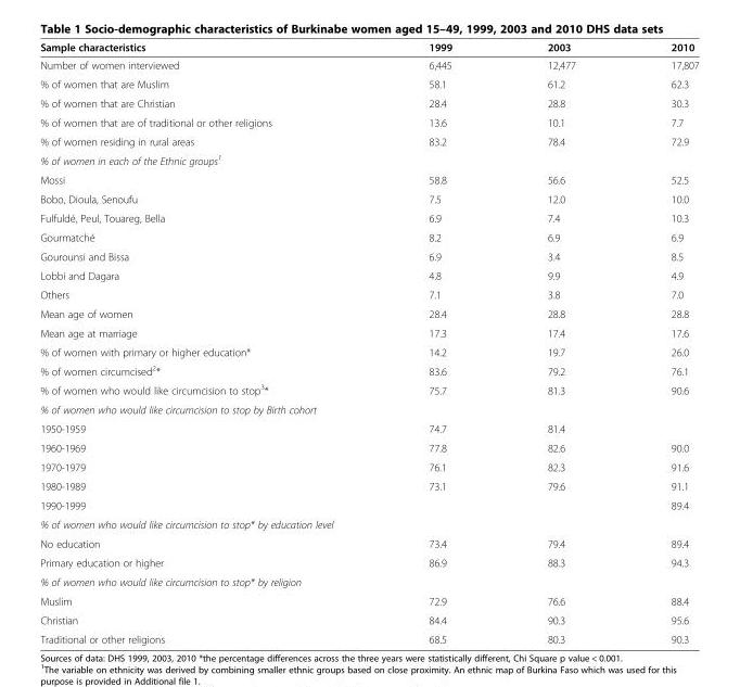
<table><thead><tr><td>Sample characteristics</td><td>1999</td><td>2003</td><td>2010</td></tr></thead><tbody><tr><td>Number of women interviewed</td><td>6,445</td><td>12,477</td><td>17,807</td></tr><tr><td>% of women that are Muslim</td><td>58.1</td><td>61.2</td><td>62.3</td></tr><tr><td>% of women that are Christian</td><td>28.4</td><td>28.8</td><td>30.3</td></tr><tr><td>% of women that are of traditional or other religions</td><td>13.6</td><td>10.1</td><td>7.7</td></tr><tr><td>% of women residing in rural areas</td><td>83.2</td><td>78.4</td><td>72.9</td></tr><tr><td colspan="4">% of women in each of the Ethnic groups<sup>1</sup></td></tr><tr><td>Mossi</td><td>58.8</td><td>56.6</td><td>52.5</td></tr><tr><td>Bobo, Dioula, Senoufu</td><td>7.5</td><td>12.0</td><td>10.0</td></tr><tr><td>Fulfuldé, Peul, Touareg, Bella</td><td>6.9</td><td>7.4</td><td>10.3</td></tr><tr><td>Gourmatché</td><td>8.2</td><td>6.9</td><td>6.9</td></tr><tr><td>Gourounsi and Bissa</td><td>6.9</td><td>3.4</td><td>8.5</td></tr><tr><td>Lobbi and Dagara</td><td>4.8</td><td>9.9</td><td>4.9</td></tr><tr><td>Others</td><td>7.1</td><td>3.8</td><td>7.0</td></tr><tr><td>Mean age of women</td><td>28.4</td><td>28.8</td><td>28.8</td></tr><tr><td>Mean age at marriage</td><td>17.3</td><td>17.4</td><td>17.6</td></tr><tr><td>% of women with primary or higher education*</td><td>14.2</td><td>19.7</td><td>26.0</td></tr><tr><td>% of women circumcised<sup>2</sup>*</td><td>83.6</td><td>79.2</td><td>76.1</td></tr><tr><td>% of women who would like circumcision to stop<sup>3</sup>*</td><td>75.7</td><td>81.3</td><td>90.6</td></tr><tr><td colspan="4">% of women who would like circumcision to stop by Birth cohort</td></tr><tr><td>1950-1959</td><td>74.7</td><td>81.4</td><td></td></tr><tr><td>1960-1969</td><td>77.8</td><td>82.6</td><td>90.0</td></tr><tr><td>1970-1979</td><td>76.1</td><td>82.3</td><td>91.6</td></tr><tr><td>1980-1989</td><td>73.1</td><td>79.6</td><td>91.1</td></tr><tr><td>1990-1999</td><td></td><td></td><td>89.4</td></tr><tr><td colspan="4">% of women who would like circumcision to stop* by education level</td></tr><tr><td>No education</td><td>73.4</td><td>79.4</td><td>89.4</td></tr><tr><td>Primary education or higher</td><td>86.9</td><td>88.3</td><td>94.3</td></tr><tr><td colspan="4">% of women who would like circumcision to stop* by religion</td></tr><tr><td>Muslim</td><td>72.9</td><td>76.6</td><td>88.4</td></tr><tr><td>Christian</td><td>84.4</td><td>90.3</td><td>95.6</td></tr><tr><td>Traditional or other religions</td><td>68.5</td><td>80.3</td><td>90.3</td></tr></tbody></table>